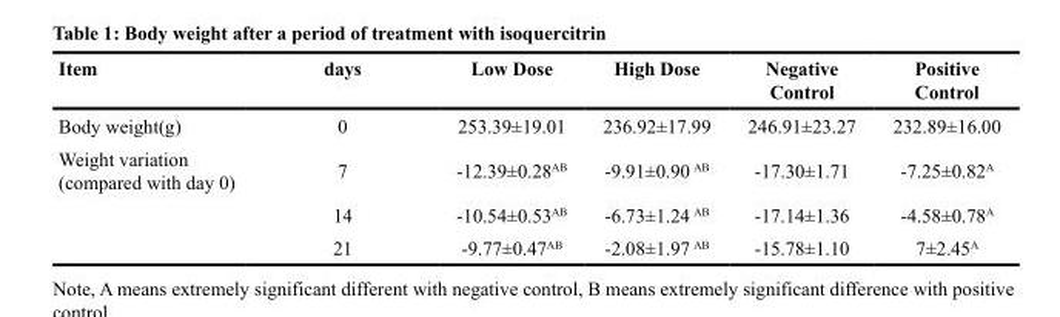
<table><thead><tr><td>Item</td><td>days</td><td>Low Dose</td><td>High Dose</td><td>Negative Control</td><td>Positive Control</td></tr></thead><tbody><tr><td>Body weight(g)</td><td>0</td><td>253.39±19.01</td><td>236.92±17.99</td><td>246.91±23.27</td><td>232.89±16.00</td></tr><tr><td rowspan="3">Weight variation (compared with day 0)</td><td>7</td><td>-12.39±0.28<sup>AB</sup></td><td>-9.91±0.90 <sup>AB</sup></td><td>-17.30±1.71</td><td>-7.25±0.82<sup>A</sup></td></tr><tr><td>14</td><td>-10.54±0.53<sup>AB</sup></td><td>-6.73±1.24 <sup>AB</sup></td><td>-17.14±1.36</td><td>-4.58±0.78<sup>A</sup></td></tr><tr><td>21</td><td>-9.77±0.47<sup>AB</sup></td><td>-2.08±1.97 <sup>AB</sup></td><td>-15.78±1.10</td><td>7±2.45<sup>A</sup></td></tr></tbody></table>